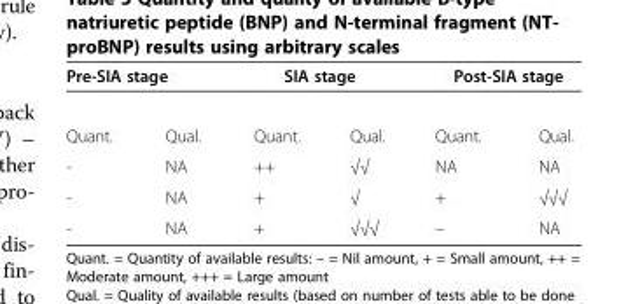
<table><thead><tr><td colspan="2">Pre-SIA stage</td><td colspan="2">SIA stage</td><td colspan="2">Post-SIA stage</td></tr><tr><td>Quant.</td><td>Qual.</td><td>Quant.</td><td>Qual.</td><td>Quant.</td><td>Qual.</td></tr></thead><tbody><tr><td>-</td><td>NA</td><td>++</td><td>√√</td><td>NA</td><td>NA</td></tr><tr><td>-</td><td>NA</td><td>+</td><td>√</td><td>+</td><td>√√√</td></tr><tr><td>-</td><td>NA</td><td>+</td><td>√√√</td><td>–</td><td>NA</td></tr></tbody></table>